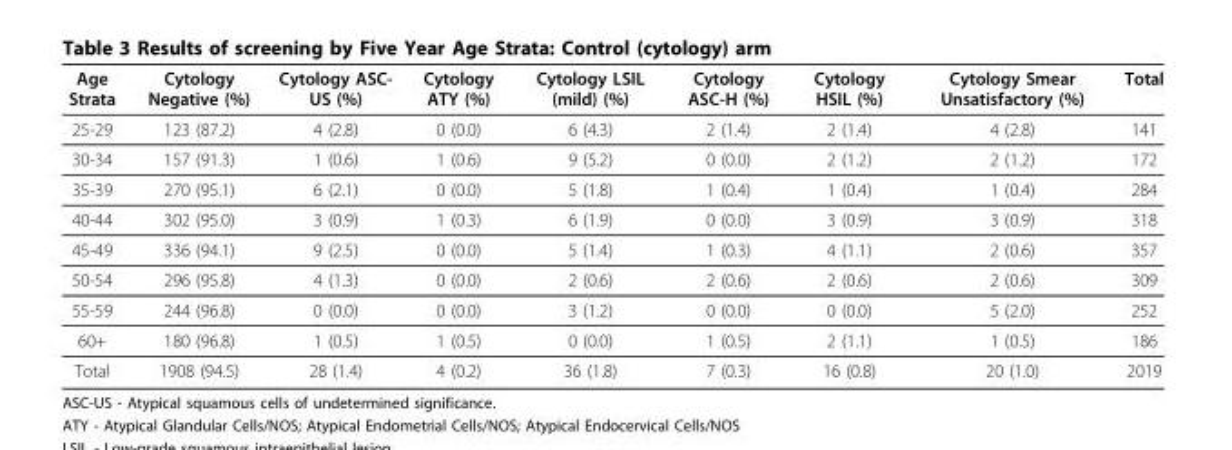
<table><thead><tr><td>Age Strata</td><td>Cytology Negative (%)</td><td>Cytology ASC- US (%)</td><td>Cytology ATY (%)</td><td>Cytology LSIL (mild) (%)</td><td>Cytology ASC-H (%)</td><td>Cytology HSIL (%)</td><td>Cytology Smear Unsatisfactory (%)</td><td>Total</td></tr></thead><tbody><tr><td>25-29</td><td>123 (87.2)</td><td>4 (2.8)</td><td>0 (0.0)</td><td>6 (4.3)</td><td>2 (1.4)</td><td>2 (1.4)</td><td>4 (2.8)</td><td>141</td></tr><tr><td>30-34</td><td>157 (91.3)</td><td>1 (0.6)</td><td>1 (0.6)</td><td>9 (5.2)</td><td>0 (0.0)</td><td>2 (1.2)</td><td>2 (1.2)</td><td>172</td></tr><tr><td>35-39</td><td>270 (95.1)</td><td>6 (2.1)</td><td>0 (0.0)</td><td>5 (1.8)</td><td>1 (0.4)</td><td>1 (0.4)</td><td>1 (0.4)</td><td>284</td></tr><tr><td>40-44</td><td>302 (95.0)</td><td>3 (0.9)</td><td>1 (0.3)</td><td>6 (1.9)</td><td>0 (0.0)</td><td>3 (0.9)</td><td>3 (0.9)</td><td>318</td></tr><tr><td>45-49</td><td>336 (94.1)</td><td>9 (2.5)</td><td>0 (0.0)</td><td>5 (1.4)</td><td>1 (0.3)</td><td>4 (1.1)</td><td>2 (0.6)</td><td>357</td></tr><tr><td>50-54</td><td>296 (95.8)</td><td>4 (1.3)</td><td>0 (0.0)</td><td>2 (0.6)</td><td>2 (0.6)</td><td>2 (0.6)</td><td>2 (0.6)</td><td>309</td></tr><tr><td>55-59</td><td>244 (96.8)</td><td>0 (0.0)</td><td>0 (0.0)</td><td>3 (1.2)</td><td>0 (0.0)</td><td>0 (0.0)</td><td>5 (2.0)</td><td>252</td></tr><tr><td>60+</td><td>180 (96.8)</td><td>1 (0.5)</td><td>1 (0.5)</td><td>0 (0.0)</td><td>1 (0.5)</td><td>2 (1.1)</td><td>1 (0.5)</td><td>186</td></tr><tr><td>Total</td><td>1908 (94.5)</td><td>28 (1.4)</td><td>4 (0.2)</td><td>36 (1.8)</td><td>7 (0.3)</td><td>16 (0.8)</td><td>20 (1.0)</td><td>2019</td></tr></tbody></table>